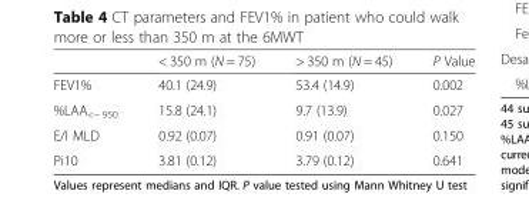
<table><thead><tr><td></td><td>&lt; 350 m (N = 75)</td><td>&gt; 350 m (N = 45)</td><td>P Value</td></tr></thead><tbody><tr><td>FEV1%</td><td>40.1 (24.9)</td><td>53.4 (14.9)</td><td>0.002</td></tr><tr><td>%LAA<sub>&lt;− 950</sub></td><td>15.8 (24.1)</td><td>9.7 (13.9)</td><td>0.027</td></tr><tr><td>E/I MLD</td><td>0.92 (0.07)</td><td>0.91 (0.07)</td><td>0.150</td></tr><tr><td>Pi10</td><td>3.81 (0.12)</td><td>3.79 (0.12)</td><td>0.641</td></tr></tbody></table>